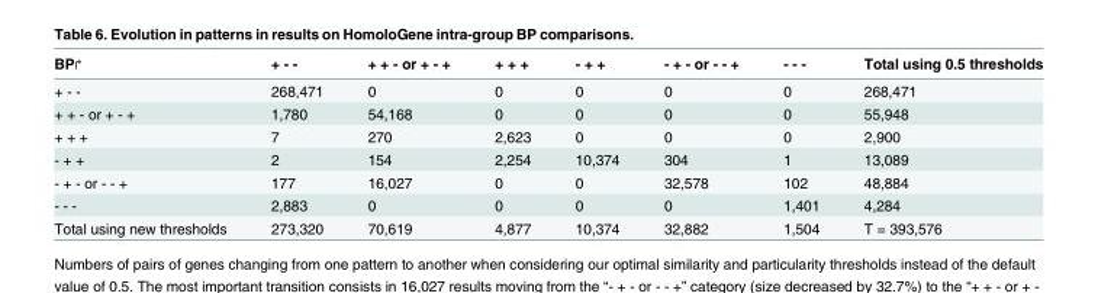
<table><thead><tr><td>BP↱</td><td>+ - -</td><td>+ + - or + - +</td><td>+ + +</td><td>- + +</td><td>- + - or - - +</td><td>- - -</td><td>Total using 0.5 thresholds</td></tr></thead><tbody><tr><td>+ - -</td><td>268,471</td><td>0</td><td>0</td><td>0</td><td>0</td><td>0</td><td>268,471</td></tr><tr><td>+ + - or + - +</td><td>1,780</td><td>54,168</td><td>0</td><td>0</td><td>0</td><td>0</td><td>55,948</td></tr><tr><td>+ + +</td><td>7</td><td>270</td><td>2,623</td><td>0</td><td>0</td><td>0</td><td>2,900</td></tr><tr><td>- + +</td><td>2</td><td>154</td><td>2,254</td><td>10,374</td><td>304</td><td>1</td><td>13,089</td></tr><tr><td>- + - or - - +</td><td>177</td><td>16,027</td><td>0</td><td>0</td><td>32,578</td><td>102</td><td>48,884</td></tr><tr><td>- - -</td><td>2,883</td><td>0</td><td>0</td><td>0</td><td>0</td><td>1,401</td><td>4,284</td></tr><tr><td>Total using new thresholds</td><td>273,320</td><td>70,619</td><td>4,877</td><td>10,374</td><td>32,882</td><td>1,504</td><td>T = 393,576</td></tr></tbody></table>